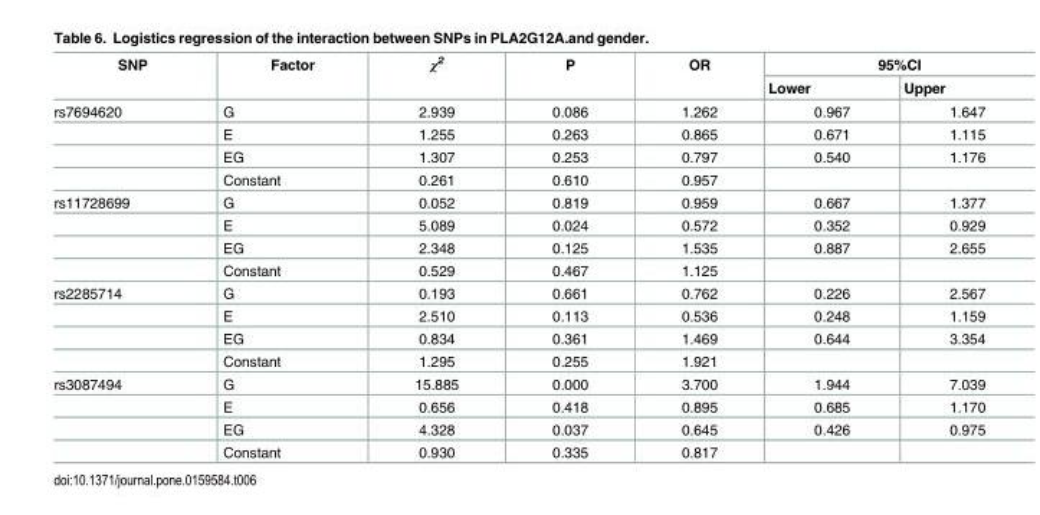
<table><thead><tr><td rowspan="2">SNP</td><td rowspan="2">Factor</td><td rowspan="2">χ<sup>2</sup></td><td rowspan="2">P</td><td rowspan="2">OR</td><td colspan="2">95%CI</td></tr><tr><td>Lower</td><td>Upper</td></tr></thead><tbody><tr><td rowspan="4">rs7694620</td><td>G</td><td>2.939</td><td>0.086</td><td>1.262</td><td>0.967</td><td>1.647</td></tr><tr><td>E</td><td>1.255</td><td>0.263</td><td>0.865</td><td>0.671</td><td>1.115</td></tr><tr><td>EG</td><td>1.307</td><td>0.253</td><td>0.797</td><td>0.540</td><td>1.176</td></tr><tr><td>Constant</td><td>0.261</td><td>0.610</td><td>0.957</td><td></td><td></td></tr><tr><td rowspan="4">rs11728699</td><td>G</td><td>0.052</td><td>0.819</td><td>0.959</td><td>0.667</td><td>1.377</td></tr><tr><td>E</td><td>5.089</td><td>0.024</td><td>0.572</td><td>0.352</td><td>0.929</td></tr><tr><td>EG</td><td>2.348</td><td>0.125</td><td>1.535</td><td>0.887</td><td>2.655</td></tr><tr><td>Constant</td><td>0.529</td><td>0.467</td><td>1.125</td><td></td><td></td></tr><tr><td rowspan="4">rs2285714</td><td>G</td><td>0.193</td><td>0.661</td><td>0.762</td><td>0.226</td><td>2.567</td></tr><tr><td>E</td><td>2.510</td><td>0.113</td><td>0.536</td><td>0.248</td><td>1.159</td></tr><tr><td>EG</td><td>0.834</td><td>0.361</td><td>1.469</td><td>0.644</td><td>3.354</td></tr><tr><td>Constant</td><td>1.295</td><td>0.255</td><td>1.921</td><td></td><td></td></tr><tr><td rowspan="4">rs3087494</td><td>G</td><td>15.885</td><td>0.000</td><td>3.700</td><td>1.944</td><td>7.039</td></tr><tr><td>E</td><td>0.656</td><td>0.418</td><td>0.895</td><td>0.685</td><td>1.170</td></tr><tr><td>EG</td><td>4.328</td><td>0.037</td><td>0.645</td><td>0.426</td><td>0.975</td></tr><tr><td>Constant</td><td>0.930</td><td>0.335</td><td>0.817</td><td></td><td></td></tr></tbody></table>